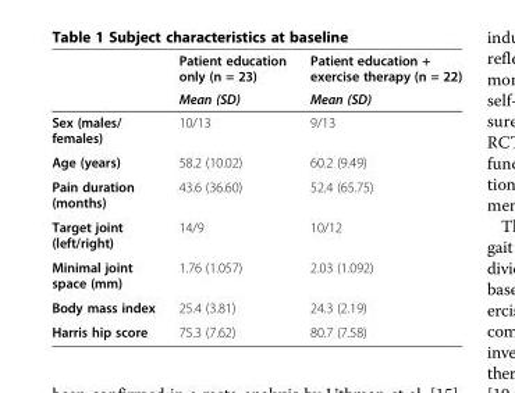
<table><thead><tr><td rowspan="2"></td><td rowspan="2">Patient education only (n = 23) Mean (SD)</td><td rowspan="2">Patient education + exercise therapy (n = 22) Mean (SD)</td></tr><tr></tr></thead><tbody><tr><td>Sex (males/ females)</td><td>10/13</td><td>9/13</td></tr><tr><td>Age (years)</td><td>58.2 (10.02)</td><td>60.2 (9.49)</td></tr><tr><td>Pain duration (months)</td><td>43.6 (36.60)</td><td>52.4 (65.75)</td></tr><tr><td>Target joint (left/right)</td><td>14/9</td><td>10/12</td></tr><tr><td>Minimal joint space (mm)</td><td>1.76 (1.057)</td><td>2.03 (1.092)</td></tr><tr><td>Body mass index</td><td>25.4 (3.81)</td><td>24.3 (2.19)</td></tr><tr><td>Harris hip score</td><td>75.3 (7.62)</td><td>80.7 (7.58)</td></tr></tbody></table>